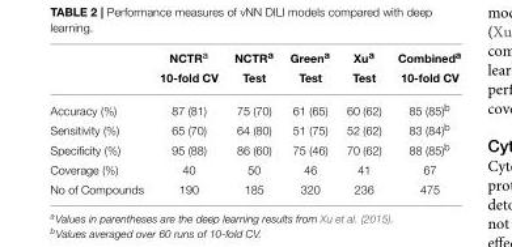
<table><thead><tr><td rowspan="2"></td><td rowspan="2">NCTR<sup>a</sup> 10-fold CV</td><td rowspan="2">NCTR<sup>a</sup> Test</td><td rowspan="2">Green<sup>a</sup> Test</td><td rowspan="2">Xu<sup>a</sup> Test</td><td rowspan="2">Combined<sup>a</sup> 10-fold CV</td></tr><tr></tr></thead><tbody><tr><td>Accuracy (%)</td><td>87 (81)</td><td>75 (70)</td><td>61 (65)</td><td>60 (62)</td><td>85 (85)<sup>b</sup></td></tr><tr><td>Sensitivity (%)</td><td>65 (70)</td><td>64 (80)</td><td>51 (75)</td><td>52 (62)</td><td>83 (84)<sup>b</sup></td></tr><tr><td>Specificity (%)</td><td>95 (88)</td><td>86 (60)</td><td>75 (46)</td><td>70 (62)</td><td>88 (85)<sup>b</sup></td></tr><tr><td>Coverage (%)</td><td>40</td><td>50</td><td>46</td><td>41</td><td>67</td></tr><tr><td>No of Compounds</td><td>190</td><td>185</td><td>320</td><td>236</td><td>475</td></tr></tbody></table>